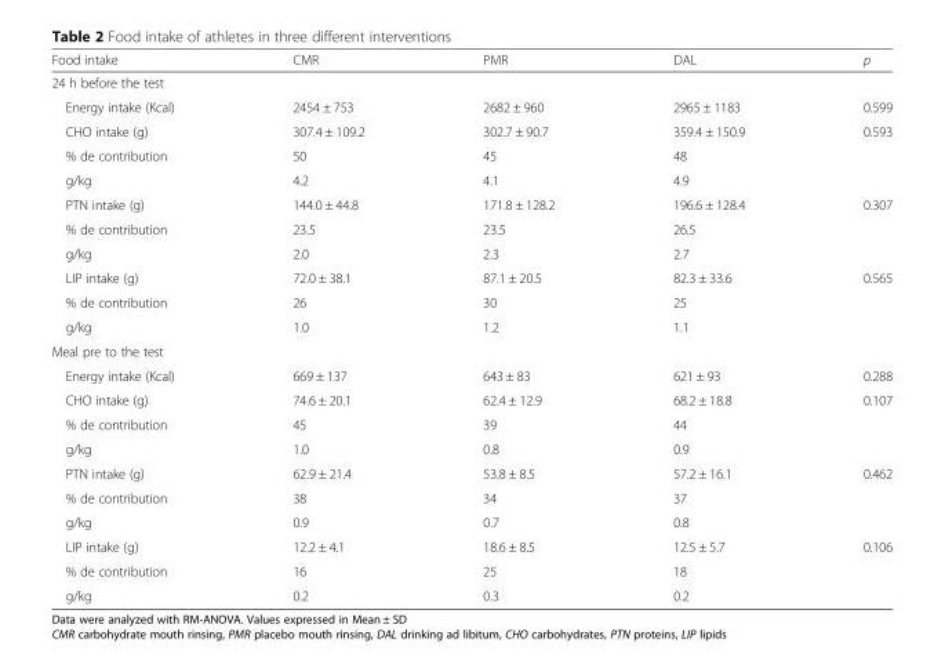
<table><thead><tr><td>Food intake</td><td>CMR</td><td>PMR</td><td>DAL</td><td>p</td></tr></thead><tbody><tr><td colspan="5">24 h before the test</td></tr><tr><td>Energy intake (Kcal)</td><td>2454 ± 753</td><td>2682 ± 960</td><td>2965 ± 1183</td><td>0.599</td></tr><tr><td>CHO intake (g)</td><td>307.4 ± 109.2</td><td>302.7 ± 90.7</td><td>359.4 ± 150.9</td><td>0.593</td></tr><tr><td>% de contribution</td><td>50</td><td>45</td><td>48</td><td></td></tr><tr><td>g/kg</td><td>4.2</td><td>4.1</td><td>4.9</td><td></td></tr><tr><td>PTN intake (g)</td><td>144.0 ± 44.8</td><td>171.8 ± 128.2</td><td>196.6 ± 128.4</td><td>0.307</td></tr><tr><td>% de contribution</td><td>23.5</td><td>23.5</td><td>26.5</td><td></td></tr><tr><td>g/kg</td><td>2.0</td><td>2.3</td><td>2.7</td><td></td></tr><tr><td>LIP intake (g)</td><td>72.0 ± 38.1</td><td>87.1 ± 20.5</td><td>82.3 ± 33.6</td><td>0.565</td></tr><tr><td>% de contribution</td><td>26</td><td>30</td><td>25</td><td></td></tr><tr><td>g/kg</td><td>1.0</td><td>1.2</td><td>1.1</td><td></td></tr><tr><td colspan="5">Meal pre to the test</td></tr><tr><td>Energy intake (Kcal)</td><td>669 ± 137</td><td>643 ± 83</td><td>621 ± 93</td><td>0.288</td></tr><tr><td>CHO intake (g)</td><td>74.6 ± 20.1</td><td>62.4 ± 12.9</td><td>68.2 ± 18.8</td><td>0.107</td></tr><tr><td>% de contribution</td><td>45</td><td>39</td><td>44</td><td></td></tr><tr><td>g/kg</td><td>1.0</td><td>0.8</td><td>0.9</td><td></td></tr><tr><td>PTN intake (g)</td><td>62.9 ± 21.4</td><td>53.8 ± 8.5</td><td>57.2 ± 16.1</td><td>0.462</td></tr><tr><td>% de contribution</td><td>38</td><td>34</td><td>37</td><td></td></tr><tr><td>g/kg</td><td>0.9</td><td>0.7</td><td>0.8</td><td></td></tr><tr><td>LIP intake (g)</td><td>12.2 ± 4.1</td><td>18.6 ± 8.5</td><td>12.5 ± 5.7</td><td>0.106</td></tr><tr><td>% de contribution</td><td>16</td><td>25</td><td>18</td><td></td></tr><tr><td>g/kg</td><td>0.2</td><td>0.3</td><td>0.2</td><td></td></tr></tbody></table>